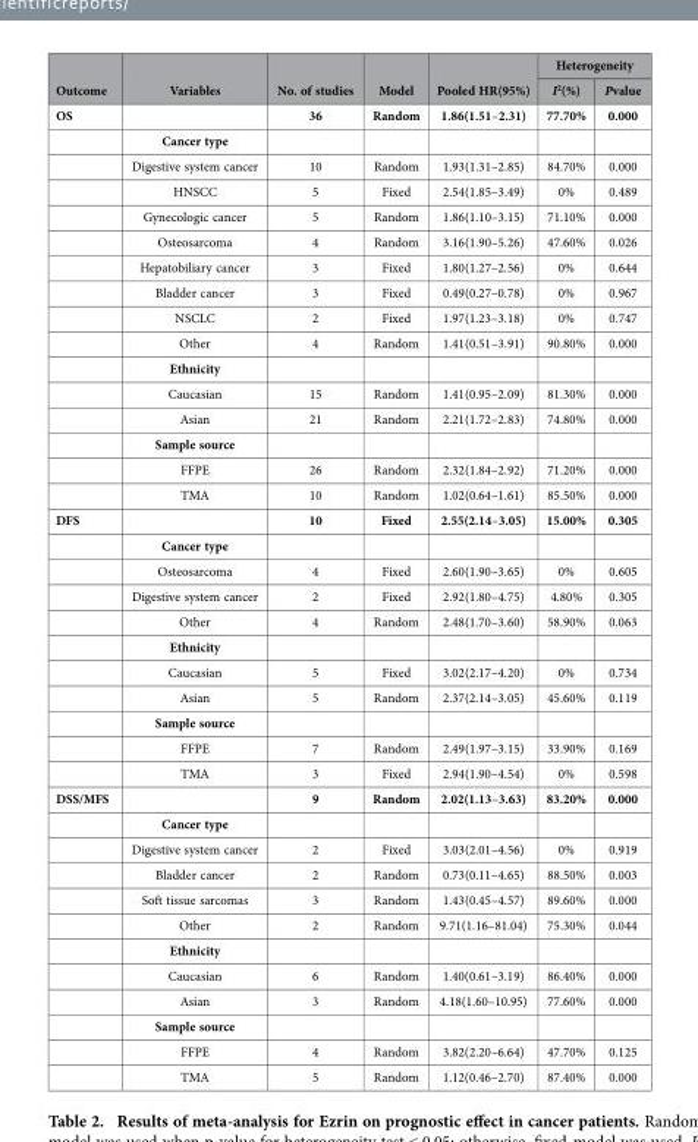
<table><thead><tr><td rowspan="2">Outcome</td><td rowspan="2">Variables</td><td rowspan="2">No. of studies</td><td rowspan="2">Model</td><td rowspan="2">Pooled HR(95%)</td><td colspan="2">Heterogeneity</td></tr><tr><td>I<sup>2</sup>(%)</td><td>Pvalue</td></tr></thead><tbody><tr><td rowspan="16">OS</td><td></td><td>36</td><td>Random</td><td>1.86(1.51–2.31)</td><td>77.70%</td><td>0.000</td></tr><tr><td>Cancer type</td><td></td><td></td><td></td><td></td><td></td></tr><tr><td>Digestive system cancer</td><td>10</td><td>Random</td><td>1.93(1.31–2.85)</td><td>84.70%</td><td>0.000</td></tr><tr><td>HNSCC</td><td>5</td><td>Fixed</td><td>2.54(1.85–3.49)</td><td>0%</td><td>0.489</td></tr><tr><td>Gynecologic cancer</td><td>5</td><td>Random</td><td>1.86(1.10–3.15)</td><td>71.10%</td><td>0.000</td></tr><tr><td>Osteosarcoma</td><td>4</td><td>Random</td><td>3.16(1.90–5.26)</td><td>47.60%</td><td>0.026</td></tr><tr><td>Hepatobiliary cancer</td><td>3</td><td>Fixed</td><td>1.80(1.27–2.56)</td><td>0%</td><td>0.644</td></tr><tr><td>Bladder cancer</td><td>3</td><td>Fixed</td><td>0.49(0.27–0.78)</td><td>0%</td><td>0.967</td></tr><tr><td>NSCLC</td><td>2</td><td>Fixed</td><td>1.97(1.23–3.18)</td><td>0%</td><td>0.747</td></tr><tr><td>Other</td><td>4</td><td>Random</td><td>1.41(0.51–3.91)</td><td>90.80%</td><td>0.000</td></tr><tr><td>Ethnicity</td><td></td><td></td><td></td><td></td><td></td></tr><tr><td>Caucasian</td><td>15</td><td>Random</td><td>1.41(0.95–2.09)</td><td>81.30%</td><td>0.000</td></tr><tr><td>Asian</td><td>21</td><td>Random</td><td>2.21(1.72–2.83)</td><td>74.80%</td><td>0.000</td></tr><tr><td>Sample source</td><td></td><td></td><td></td><td></td><td></td></tr><tr><td>FFPE</td><td>26</td><td>Random</td><td>2.32(1.84–2.92)</td><td>71.20%</td><td>0.000</td></tr><tr><td>TMA</td><td>10</td><td>Random</td><td>1.02(0.64–1.61)</td><td>85.50%</td><td>0.000</td></tr><tr><td rowspan="11">DFS</td><td></td><td>10</td><td>Fixed</td><td>2.55(2.14–3.05)</td><td>15.00%</td><td>0.305</td></tr><tr><td>Cancer type</td><td></td><td></td><td></td><td></td><td></td></tr><tr><td>Osteosarcoma</td><td>4</td><td>Fixed</td><td>2.60(1.90–3.65)</td><td>0%</td><td>0.605</td></tr><tr><td>Digestive system cancer</td><td>2</td><td>Fixed</td><td>2.92(1.80–4.75)</td><td>4.80%</td><td>0.305</td></tr><tr><td>Other</td><td>4</td><td>Random</td><td>2.48(1.70–3.60)</td><td>58.90%</td><td>0.063</td></tr><tr><td>Ethnicity</td><td></td><td></td><td></td><td></td><td></td></tr><tr><td>Caucasian</td><td>5</td><td>Fixed</td><td>3.02(2.17–4.20)</td><td>0%</td><td>0.734</td></tr><tr><td>Asian</td><td>5</td><td>Random</td><td>2.37(2.14–3.05)</td><td>45.60%</td><td>0.119</td></tr><tr><td>Sample source</td><td></td><td></td><td></td><td></td><td></td></tr><tr><td>FFPE</td><td>7</td><td>Random</td><td>2.49(1.97–3.15)</td><td>33.90%</td><td>0.169</td></tr><tr><td>TMA</td><td>3</td><td>Fixed</td><td>2.94(1.90–4.54)</td><td>0%</td><td>0.598</td></tr><tr><td rowspan="12">DSS/MFS</td><td></td><td>9</td><td>Random</td><td>2.02(1.13–3.63)</td><td>83.20%</td><td>0.000</td></tr><tr><td>Cancer type</td><td></td><td></td><td></td><td></td><td></td></tr><tr><td>Digestive system cancer</td><td>2</td><td>Fixed</td><td>3.03(2.01–4.56)</td><td>0%</td><td>0.919</td></tr><tr><td>Bladder cancer</td><td>2</td><td>Random</td><td>0.73(0.11–4.65)</td><td>88.50%</td><td>0.003</td></tr><tr><td>Soft tissue sarcomas</td><td>3</td><td>Random</td><td>1.43(0.45–4.57)</td><td>89.60%</td><td>0.000</td></tr><tr><td>Other</td><td>2</td><td>Random</td><td>9.71(1.16–81.04)</td><td>75.30%</td><td>0.044</td></tr><tr><td>Ethnicity</td><td></td><td></td><td></td><td></td><td></td></tr><tr><td>Caucasian</td><td>6</td><td>Random</td><td>1.40(0.61–3.19)</td><td>86.40%</td><td>0.000</td></tr><tr><td>Asian</td><td>3</td><td>Random</td><td>4.18(1.60–10.95)</td><td>77.60%</td><td>0.000</td></tr><tr><td>Sample source</td><td></td><td></td><td></td><td></td><td></td></tr><tr><td>FFPE</td><td>4</td><td>Random</td><td>3.82(2.20–6.64)</td><td>47.70%</td><td>0.125</td></tr><tr><td>TMA</td><td>5</td><td>Random</td><td>1.12(0.46–2.70)</td><td>87.40%</td><td>0.000</td></tr></tbody></table>